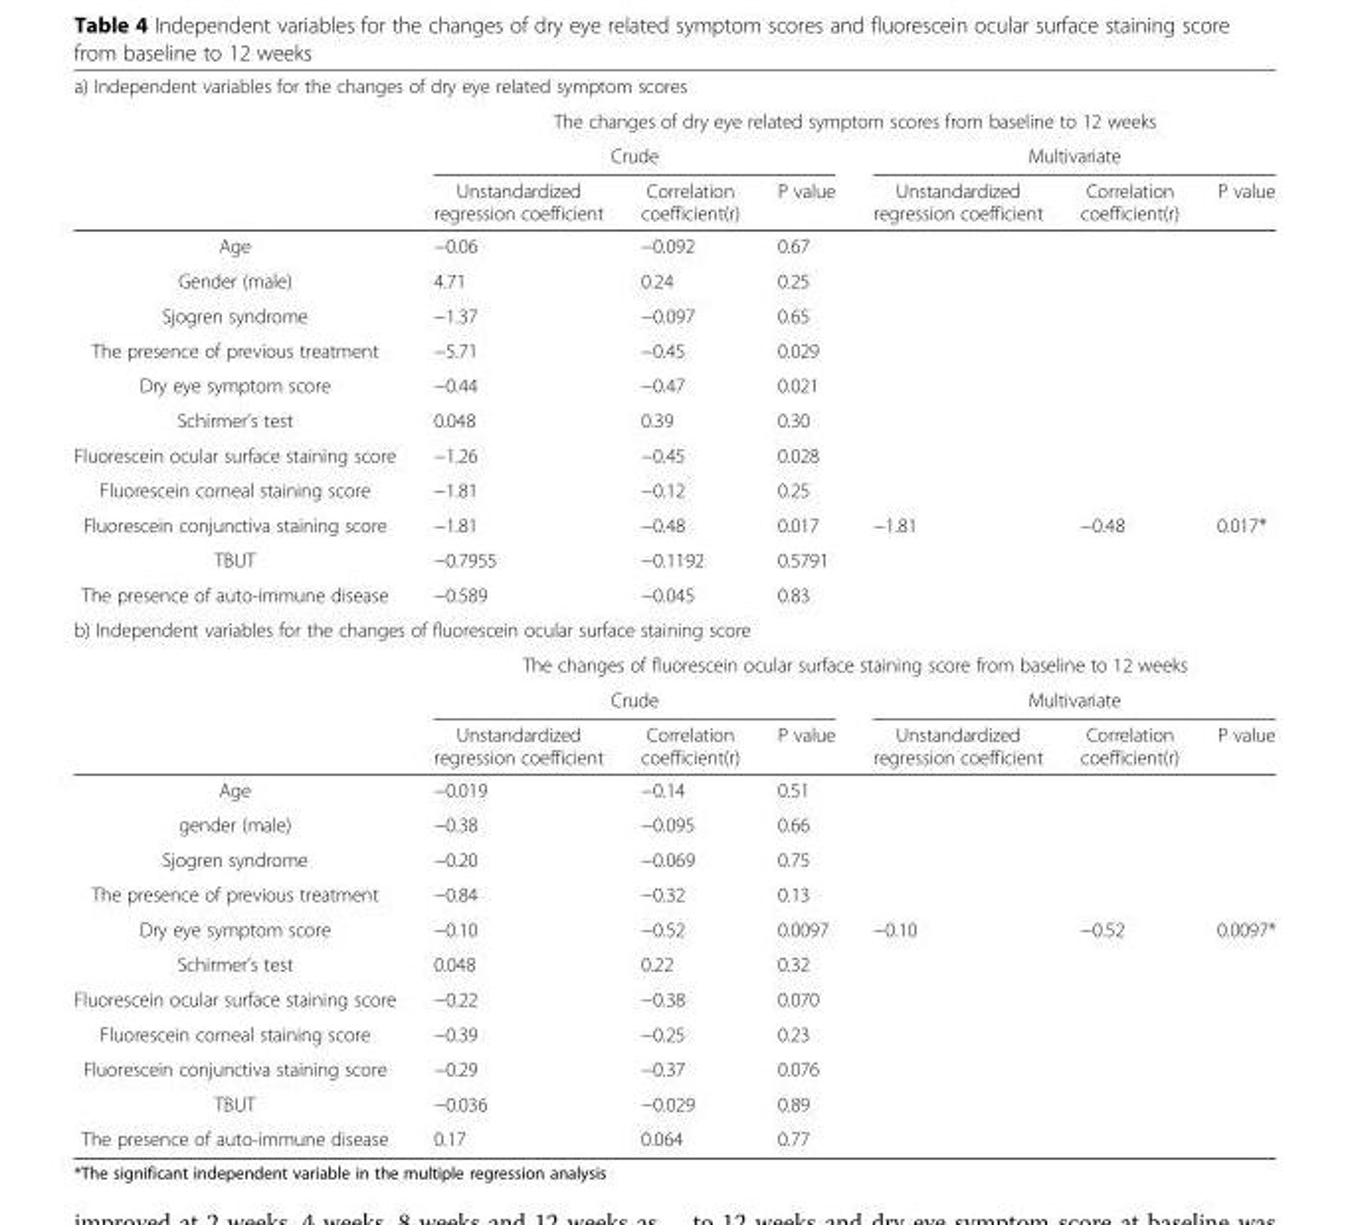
<table><tbody><tr><td colspan="7">a) Independent variables for the changes of dry eye related symptom scores</td></tr><tr><td></td><td colspan="6">The changes of dry eye related symptom scores from baseline to 12 weeks</td></tr><tr><td></td><td colspan="3">Crude</td><td colspan="3">Multivariate</td></tr><tr><td></td><td>Unstandardized regression coefficient</td><td>Correlation coefficient(r)</td><td>P value</td><td>Unstandardized regression coefficient</td><td>Correlation coefficient(r)</td><td>P value</td></tr><tr><td>Age</td><td>−0.06</td><td>−0.092</td><td>0.67</td><td></td><td></td><td></td></tr><tr><td>Gender (male)</td><td>4.71</td><td>0.24</td><td>0.25</td><td></td><td></td><td></td></tr><tr><td>Sjogren syndrome</td><td>−1.37</td><td>−0.097</td><td>0.65</td><td></td><td></td><td></td></tr><tr><td>The presence of previous treatment</td><td>−5.71</td><td>−0.45</td><td>0.029</td><td></td><td></td><td></td></tr><tr><td>Dry eye symptom score</td><td>−0.44</td><td>−0.47</td><td>0.021</td><td></td><td></td><td></td></tr><tr><td>Schirmer’s test</td><td>0.048</td><td>0.39</td><td>0.30</td><td></td><td></td><td></td></tr><tr><td>Fluorescein ocular surface staining score</td><td>−1.26</td><td>−0.45</td><td>0.028</td><td></td><td></td><td></td></tr><tr><td>Fluorescein corneal staining score</td><td>−1.81</td><td>−0.12</td><td>0.25</td><td></td><td></td><td></td></tr><tr><td>Fluorescein conjunctiva staining score</td><td>−1.81</td><td>−0.48</td><td>0.017</td><td>−1.81</td><td>−0.48</td><td>0.017*</td></tr><tr><td>TBUT</td><td>−0.7955</td><td>−0.1192</td><td>0.5791</td><td></td><td></td><td></td></tr><tr><td>The presence of auto-immune disease</td><td>−0.589</td><td>−0.045</td><td>0.83</td><td></td><td></td><td></td></tr><tr><td colspan="7">b) Independent variables for the changes of fluorescein ocular surface staining score</td></tr><tr><td></td><td colspan="6">The changes of fluorescein ocular surface staining score from baseline to 12 weeks</td></tr><tr><td></td><td colspan="3">Crude</td><td colspan="3">Multivariate</td></tr><tr><td></td><td>Unstandardized regression coefficient</td><td>Correlation coefficient(r)</td><td>P value</td><td>Unstandardized regression coefficient</td><td>Correlation coefficient(r)</td><td>P value</td></tr><tr><td>Age</td><td>−0.019</td><td>−0.14</td><td>0.51</td><td></td><td></td><td></td></tr><tr><td>gender (male)</td><td>−0.38</td><td>−0.095</td><td>0.66</td><td></td><td></td><td></td></tr><tr><td>Sjogren syndrome</td><td>−0.20</td><td>−0.069</td><td>0.75</td><td></td><td></td><td></td></tr><tr><td>The presence of previous treatment</td><td>−0.84</td><td>−0.32</td><td>0.13</td><td></td><td></td><td></td></tr><tr><td>Dry eye symptom score</td><td>−0.10</td><td>−0.52</td><td>0.0097</td><td>−0.10</td><td>−0.52</td><td>0.0097*</td></tr><tr><td>Schirmer’s test</td><td>0.048</td><td>0.22</td><td>0.32</td><td></td><td></td><td></td></tr><tr><td>Fluorescein ocular surface staining score</td><td>−0.22</td><td>−0.38</td><td>0.070</td><td></td><td></td><td></td></tr><tr><td>Fluorescein corneal staining score</td><td>−0.39</td><td>−0.25</td><td>0.23</td><td></td><td></td><td></td></tr><tr><td>Fluorescein conjunctiva staining score</td><td>−0.29</td><td>−0.37</td><td>0.076</td><td></td><td></td><td></td></tr><tr><td>TBUT</td><td>−0.036</td><td>−0.029</td><td>0.89</td><td></td><td></td><td></td></tr><tr><td>The presence of auto-immune disease</td><td>0.17</td><td>0.064</td><td>0.77</td><td></td><td></td><td></td></tr></tbody></table>